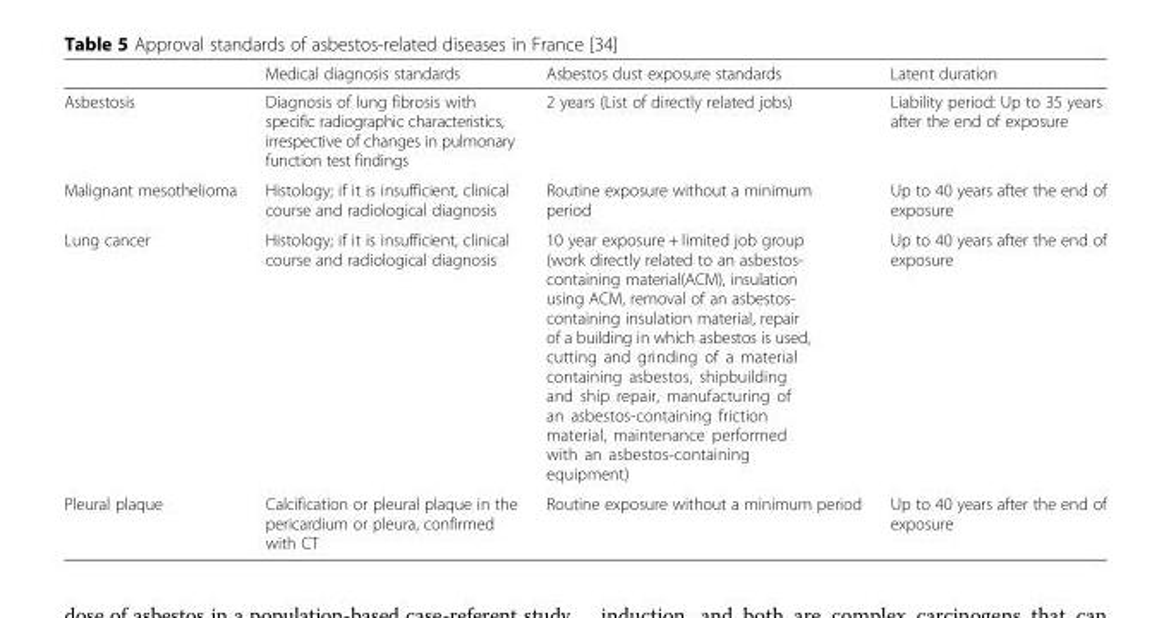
<table><thead><tr><td></td><td>Medical diagnosis standards</td><td>Asbestos dust exposure standards</td><td>Latent duration</td></tr></thead><tbody><tr><td>Asbestosis</td><td>Diagnosis of lung fibrosis with specific radiographic characteristics, irrespective of changes in pulmonary function test findings</td><td>2 years (List of directly related jobs)</td><td>Liability period: Up to 35 years after the end of exposure</td></tr><tr><td>Malignant mesothelioma</td><td>Histology; if it is insufficient, clinical course and radiological diagnosis</td><td>Routine exposure without a minimum period</td><td>Up to 40 years after the end of exposure</td></tr><tr><td>Lung cancer</td><td>Histology; if it is insufficient, clinical course and radiological diagnosis</td><td>10 year exposure + limited job group (work directly related to an asbestos- containing material(ACM), insulation using ACM, removal of an asbestos- containing insulation material, repair of a building in which asbestos is used, cutting and grinding of a material containing asbestos, shipbuilding and ship repair, manufacturing of an asbestos-containing friction material, maintenance performed with an asbestos-containing equipment)</td><td>Up to 40 years after the end of exposure</td></tr><tr><td>Pleural plaque</td><td>Calcification or pleural plaque in the pericardium or pleura, confirmed with CT</td><td>Routine exposure without a minimum period</td><td>Up to 40 years after the end of exposure</td></tr></tbody></table>